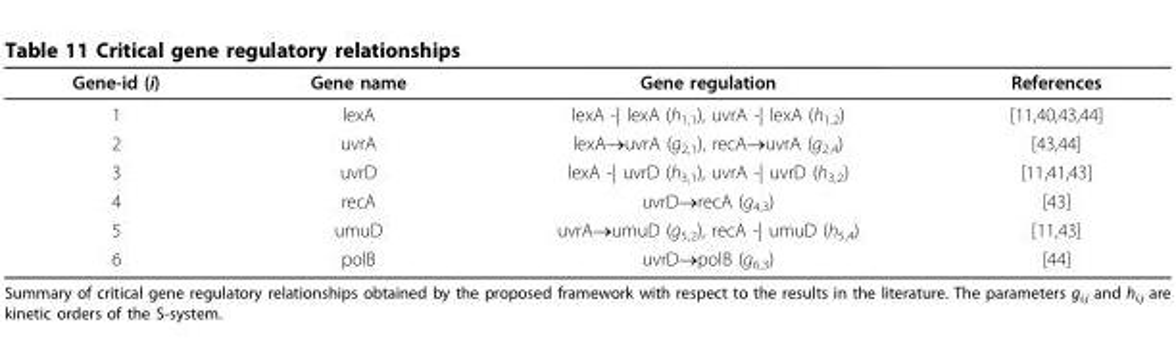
<table><thead><tr><td>Gene-id (i)</td><td>Gene name</td><td>Gene regulation</td><td>References</td></tr></thead><tbody><tr><td>1</td><td>lexA</td><td>lexA -| lexA (h<sub>1,1</sub>), uvrA -| lexA (h<sub>1,2</sub>)</td><td>[11,40,43,44]</td></tr><tr><td>2</td><td>uvrA</td><td>lexA→uvrA (g<sub>2,1</sub>), recA→uvrA (g<sub>2,4</sub>)</td><td>[43,44]</td></tr><tr><td>3</td><td>uvrD</td><td>lexA -| uvrD (h<sub>3,1</sub>), uvrA -| uvrD (h<sub>3,2</sub>)</td><td>[11,41,43]</td></tr><tr><td>4</td><td>recA</td><td>uvrD→recA (g<sub>4,3</sub>)</td><td>[43]</td></tr><tr><td>5</td><td>umuD</td><td>uvrA→umuD (g<sub>5,2</sub>), recA -| umuD (h<sub>5,4</sub>)</td><td>[11,43]</td></tr><tr><td>6</td><td>polB</td><td>uvrD→polB (g<sub>6,3</sub>)</td><td>[44]</td></tr></tbody></table>